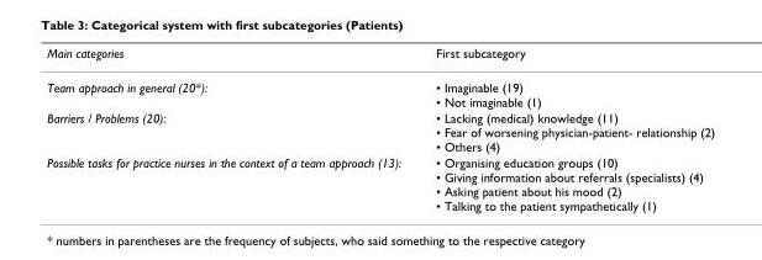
<table><thead><tr><td>Main categories</td><td>First subcategory</td></tr></thead><tbody><tr><td>Team approach in general (20*):</td><td>• Imaginable (19) • Not imaginable (1)</td></tr><tr><td>Barriers / Problems (20):</td><td>• Lacking (medical) knowledge (11) • Fear of worsening physician-patient- relationship (2) • Others (4)</td></tr><tr><td>Possible tasks for practice nurses in the context of a team approach (13):</td><td>• Organising education groups (10) • Giving information about referrals (specialists) (4) • Asking patient about his mood (2) • Talking to the patient sympathetically (1)</td></tr></tbody></table>